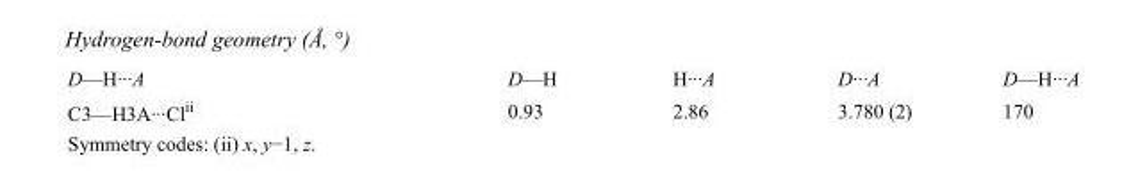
<table><tbody><tr><td>D—H···A</td><td>D—H</td><td>H···A</td><td>D···A</td><td>D—H···A</td></tr><tr><td>C3—H3A···Cl<sup>ii</sup></td><td>0.93</td><td>2.86</td><td>3.780 (2)</td><td>170</td></tr></tbody></table>